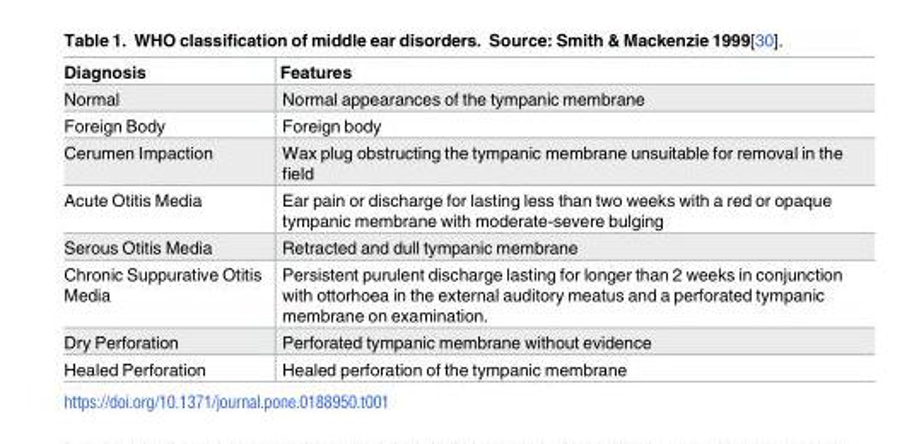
<table><thead><tr><td>Diagnosis</td><td>Features</td></tr></thead><tbody><tr><td>Normal</td><td>Normal appearances of the tympanic membrane</td></tr><tr><td>Foreign Body</td><td>Foreign body</td></tr><tr><td>Cerumen Impaction</td><td>Wax plug obstructing the tympanic membrane unsuitable for removal in the field</td></tr><tr><td>Acute Otitis Media</td><td>Ear pain or discharge for lasting less than two weeks with a red or opaque tympanic membrane with moderate-severe bulging</td></tr><tr><td>Serous Otitis Media</td><td>Retracted and dull tympanic membrane</td></tr><tr><td>Chronic Suppurative Otitis Media</td><td>Persistent purulent discharge lasting for longer than 2 weeks in conjunction with ottorhoea in the external auditory meatus and a perforated tympanic membrane on examination.</td></tr><tr><td>Dry Perforation</td><td>Perforated tympanic membrane without evidence</td></tr><tr><td>Healed Perforation</td><td>Healed perforation of the tympanic membrane</td></tr></tbody></table>